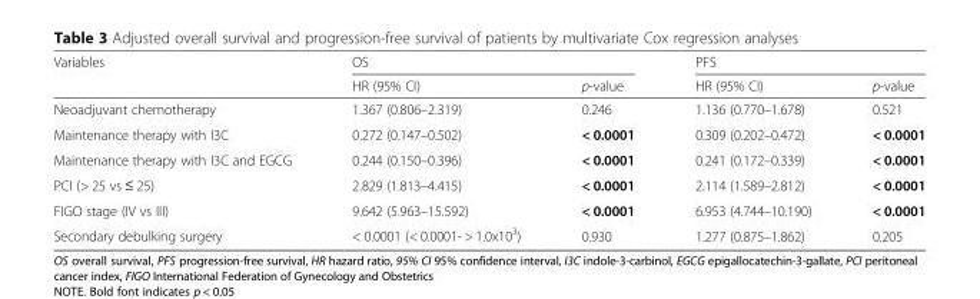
<table><thead><tr><td rowspan="2">Variables</td><td colspan="2">OS</td><td colspan="2">PFS</td></tr><tr><td>HR (95% CI)</td><td>p-value</td><td>HR (95% CI)</td><td>p-value</td></tr></thead><tbody><tr><td>Neoadjuvant chemotherapy</td><td>1.367 (0.806–2.319)</td><td>0.246</td><td>1.136 (0.770–1.678)</td><td>0.521</td></tr><tr><td>Maintenance therapy with I3C</td><td>0.272 (0.147–0.502)</td><td>&lt; 0.0001</td><td>0.309 (0.202–0.472)</td><td>&lt; 0.0001</td></tr><tr><td>Maintenance therapy with I3C and EGCG</td><td>0.244 (0.150–0.396)</td><td>&lt; 0.0001</td><td>0.241 (0.172–0.339)</td><td>&lt; 0.0001</td></tr><tr><td>PСI (&gt; 25 vs ≤ 25)</td><td>2.829 (1.813–4.415)</td><td>&lt; 0.0001</td><td>2.114 (1.589–2.812)</td><td>&lt; 0.0001</td></tr><tr><td>FIGO stage (IV vs III)</td><td>9.642 (5.963–15.592)</td><td>&lt; 0.0001</td><td>6.953 (4.744–10.190)</td><td>&lt; 0.0001</td></tr><tr><td>Secondary debulking surgery</td><td>&lt; 0.0001 (&lt; 0.0001- &gt; 1.0х10<sup>3</sup>)</td><td>0.930</td><td>1.277 (0.875–1.862)</td><td>0.205</td></tr></tbody></table>